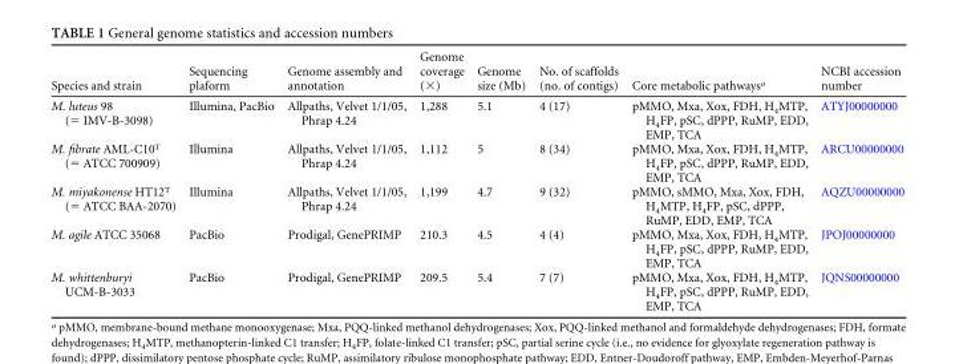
<table><thead><tr><td>Species and strain</td><td>Sequencing plaform</td><td>Genome assembly and annotation</td><td>Genome coverage (×)</td><td>Genome size (Mb)</td><td>No. of scaffolds (no. of contigs)</td><td>Core metabolic pathways<sup>a</sup></td><td>NCBI accession number</td></tr></thead><tbody><tr><td>M. luteus 98 (= IMV-B-3098)</td><td>Illumina, PacBio</td><td>Allpaths, Velvet 1/1/05, Phrap 4.24</td><td>1,288</td><td>5.1</td><td>4 (17)</td><td>pMMO, Mxa, Xox, FDH, H<sub>4</sub>MTP, H<sub>4</sub>FP, pSC, dPPP, RuMP, EDD, EMP, TCA</td><td>ATYJ00000000</td></tr><tr><td>M. fibrate AML-C10<sup>T</sup> (= ATCC 700909)</td><td>Illumina</td><td>Allpaths, Velvet 1/1/05, Phrap 4.24</td><td>1,112</td><td>5</td><td>8 (34)</td><td>pMMO, Mxa, Xox, FDH, H<sub>4</sub>MTP, H<sub>4</sub>FP, pSC, dPPP, RuMP, EDD, EMP, TCA</td><td>ARCU00000000</td></tr><tr><td>M. miyakonense HT12<sup>T</sup> (= ATCC BAA-2070)</td><td>Illumina</td><td>Allpaths, Velvet 1/1/05, Phrap 4.24</td><td>1,199</td><td>4.7</td><td>9 (32)</td><td>pMMO, sMMO, Mxa, Xox, FDH, H<sub>4</sub>MTP, H<sub>4</sub>FP, pSC, dPPP, RuMP, EDD, EMP, TCA</td><td>AQZU00000000</td></tr><tr><td>M. agile ATCC 35068</td><td>PacBio</td><td>Prodigal, GenePRIMP</td><td>210.3</td><td>4.5</td><td>4 (4)</td><td>pMMO, Mxa, Xox, FDH, H<sub>4</sub>MTP, H<sub>4</sub>FP, pSC, dPPP, RuMP, EDD, EMP, TCA</td><td>JPOJ00000000</td></tr><tr><td>M. whittenburyi UCM-B-3033</td><td>PacBio</td><td>Prodigal, GenePRIMP</td><td>209.5</td><td>5.4</td><td>7 (7)</td><td>pMMO, Mxa, Xox, FDH, H<sub>4</sub>MTP, H<sub>4</sub>FP, pSC, dPPP, RuMP, EDD, EMP, TCA</td><td>JQNS00000000</td></tr></tbody></table>